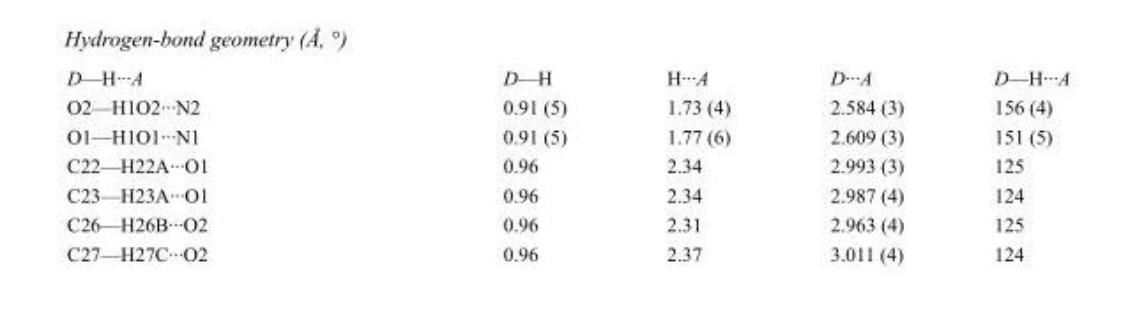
<table><tbody><tr><td>D—H···A</td><td>D—H</td><td>H···A</td><td>D···A</td><td>D—H···A</td></tr><tr><td>O2—H1O2···N2</td><td>0.91 (5)</td><td>1.73 (4)</td><td>2.584 (3)</td><td>156 (4)</td></tr><tr><td>O1—H1O1···N1</td><td>0.91 (5)</td><td>1.77 (6)</td><td>2.609 (3)</td><td>151 (5)</td></tr><tr><td>C22—H22A···O1</td><td>0.96</td><td>2.34</td><td>2.993 (3)</td><td>125</td></tr><tr><td>C23—H23A···O1</td><td>0.96</td><td>2.34</td><td>2.987 (4)</td><td>124</td></tr><tr><td>C26—H26B···O2</td><td>0.96</td><td>2.31</td><td>2.963 (4)</td><td>125</td></tr><tr><td>C27—H27C···O2</td><td>0.96</td><td>2.37</td><td>3.011 (4)</td><td>124</td></tr></tbody></table>